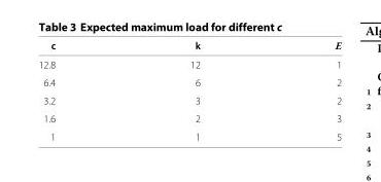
<table><thead><tr><td>c</td><td>k</td><td>E</td></tr></thead><tbody><tr><td>12.8</td><td>12</td><td>1</td></tr><tr><td>6.4</td><td>6</td><td>2</td></tr><tr><td>3.2</td><td>3</td><td>2</td></tr><tr><td>1.6</td><td>2</td><td>3</td></tr><tr><td>1</td><td>1</td><td>5</td></tr></tbody></table>